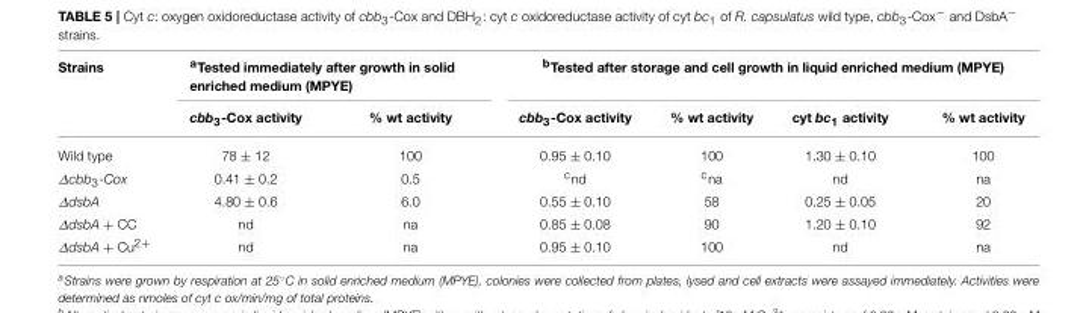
<table><thead><tr><td rowspan="2">Strains</td><td colspan="2"><sup>a</sup>Tested immediately after growth in solid enriched medium (MPYE)</td><td colspan="4"><sup>b</sup>Tested after storage and cell growth in liquid enriched medium (MPYE)</td></tr><tr><td>cbb<sub>3</sub>-Cox activity</td><td>% wt activity</td><td>cbb<sub>3</sub>-Cox activity</td><td>% wt activity</td><td>cyt bc<sub>1</sub> activity</td><td>% wt activity</td></tr></thead><tbody><tr><td>Wild type</td><td>78 ± 12</td><td>100</td><td>0.95 ± 0.10</td><td>100</td><td>1.30 ± 0.10</td><td>100</td></tr><tr><td>∆cbb3-Cox</td><td>0.41 ± 0.2</td><td>0.5</td><td><sup>c</sup>nd</td><td><sup>c</sup>na</td><td>nd</td><td>na</td></tr><tr><td>∆dsbA</td><td>4.80 ± 0.6</td><td>6.0</td><td>0.55 ± 0.10</td><td>58</td><td>0.25 ± 0.05</td><td>20</td></tr><tr><td>∆dsbA + CC</td><td>nd</td><td>na</td><td>0.85 ± 0.08</td><td>90</td><td>1.20 ± 0.10</td><td>92</td></tr><tr><td>∆dsbA + Cu2+</td><td>nd</td><td>na</td><td>0.95 ± 0.10</td><td>100</td><td>nd</td><td>na</td></tr></tbody></table>